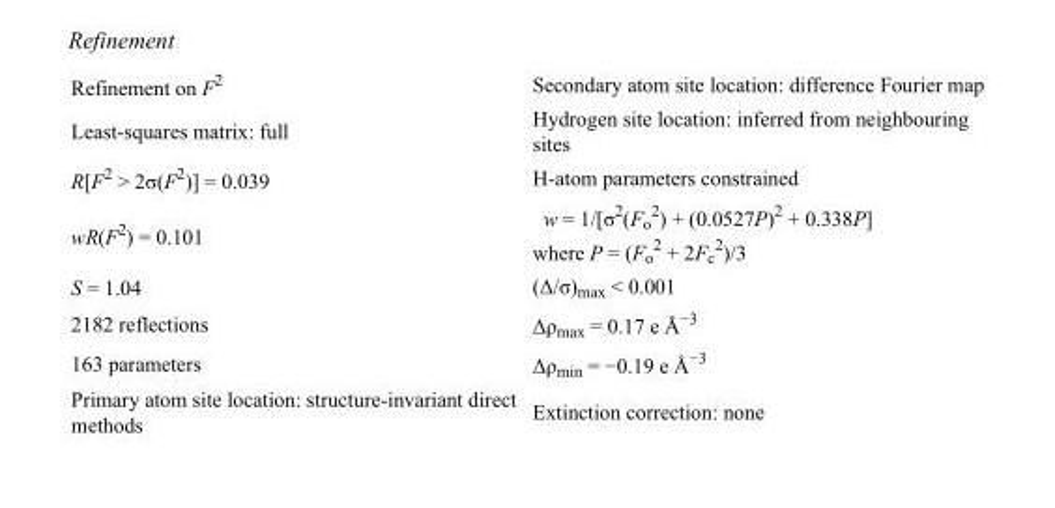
<table><tbody><tr><td>Refinement on F<sup>2</sup></td><td>Secondary atom site location: difference Fourier map</td></tr><tr><td>Least-squares matrix: full</td><td>Hydrogen site location: inferred from neighbouring sites</td></tr><tr><td>R[F<sup>2</sup> &gt; 2σ(F<sup>2</sup>)] = 0.039</td><td>H-atom parameters constrained</td></tr><tr><td>wR(F<sup>2</sup>) = 0.101</td><td>w = 1/[σ<sup>2</sup>(F<sub>o</sub> <sup>2</sup>) + (0.0527P)<sup>2</sup> + 0.338P] where P = (F<sub>o</sub> <sup>2</sup> + 2F<sub>c</sub> <sup>2</sup>)/3</td></tr><tr><td>S = 1.04</td><td>(Δ/σ)<sub>max</sub> &lt; 0.001</td></tr><tr><td>2182 reflections</td><td>Δρ<sub>max</sub> = 0.17 e Å<sup>−3</sup></td></tr><tr><td>163 parameters</td><td>Δρ<sub>min</sub> = −0.19 e Å<sup>−3</sup></td></tr><tr><td>Primary atom site location: structure-invariant direct methods</td><td>Extinction correction: none</td></tr></tbody></table>